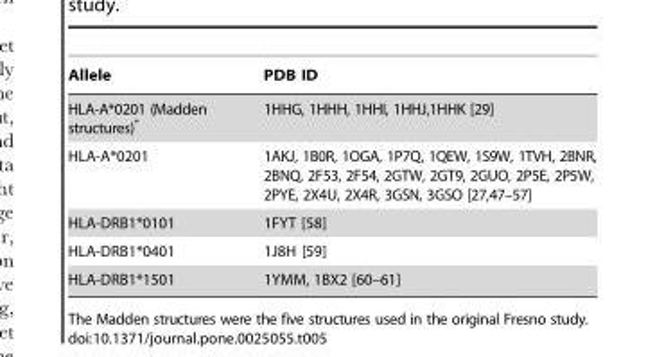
<table><thead><tr><td>Allele</td><td>PDB ID</td></tr></thead><tbody><tr><td>HLA-A*0201 (Madden structures)*</td><td>1HHG, 1HHH, 1HHI, 1HHJ,1HHK [29]</td></tr><tr><td>HLA-A*0201</td><td>1AKJ, 1B0R, 1OGA, 1P7Q, 1QEW, 1S9W, 1TVH, 2BNR, 2BNQ, 2F53, 2F54, 2GTW, 2GT9, 2GUO, 2P5E, 2P5W, 2PYE, 2X4U, 2X4R, 3GSN, 3GSO [27,47–57]</td></tr><tr><td>HLA-DRB1*0101</td><td>1FYT [58]</td></tr><tr><td>HLA-DRB1*0401</td><td>1J8H [59]</td></tr><tr><td>HLA-DRB1*1501</td><td>1YMM, 1BX2 [60–61]</td></tr></tbody></table>